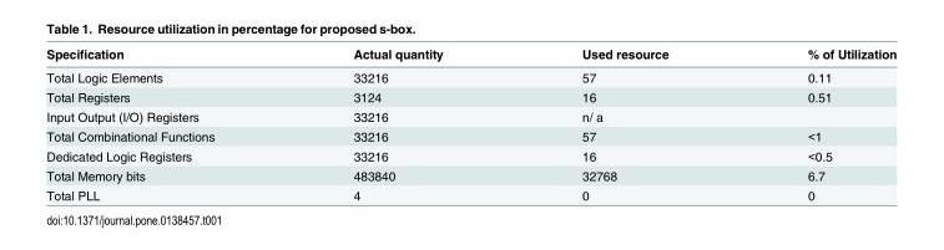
<table><thead><tr><td>Specification</td><td>Actual quantity</td><td>Used resource</td><td>% of Utilization</td></tr></thead><tbody><tr><td>Total Logic Elements</td><td>33216</td><td>57</td><td>0.11</td></tr><tr><td>Total Registers</td><td>3124</td><td>16</td><td>0.51</td></tr><tr><td>Input Output (I/O) Registers</td><td>33216</td><td>n/ a</td><td></td></tr><tr><td>Total Combinational Functions</td><td>33216</td><td>57</td><td>&lt;1</td></tr><tr><td>Dedicated Logic Registers</td><td>33216</td><td>16</td><td>&lt;0.5</td></tr><tr><td>Total Memory bits</td><td>483840</td><td>32768</td><td>6.7</td></tr><tr><td>Total PLL</td><td>4</td><td>0</td><td>0</td></tr></tbody></table>